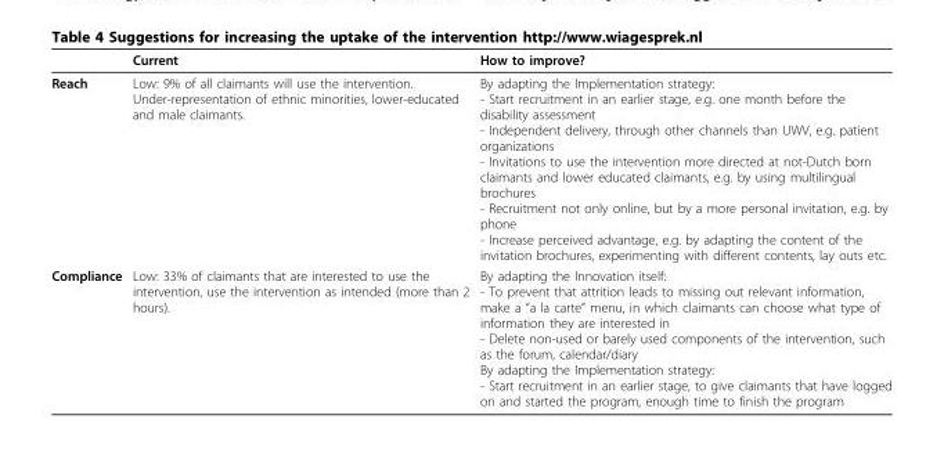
<table><thead><tr><td></td><td>Current</td><td>How to improve?</td></tr></thead><tbody><tr><td>Reach</td><td>Low: 9% of all claimants will use the intervention. Under-representation of ethnic minorities, lower-educated and male claimants.</td><td>By adapting the Implementation strategy: - Start recruitment in an earlier stage, e.g. one month before the disability assessment - Independent delivery, through other channels than UWV, e.g. patient organizations - Invitations to use the intervention more directed at not-Dutch born claimants and lower educated claimants, e.g. by using multilingual brochures - Recruitment not only online, but by a more personal invitation, e.g. by phone - Increase perceived advantage, e.g. by adapting the content of the invitation brochures, experimenting with different contents, lay outs etc.</td></tr><tr><td>Compliance</td><td>Low: 33% of claimants that are interested to use the intervention, use the intervention as intended (more than 2 hours).</td><td>By adapting the Innovation itself: - To prevent that attrition leads to missing out relevant information, make a “a la carte” menu, in which claimants can choose what type of information they are interested in - Delete non-used or barely used components of the intervention, such as the forum, calendar/diary By adapting the Implementation strategy: - Start recruitment in an earlier stage, to give claimants that have logged on and started the program, enough time to finish the program</td></tr></tbody></table>